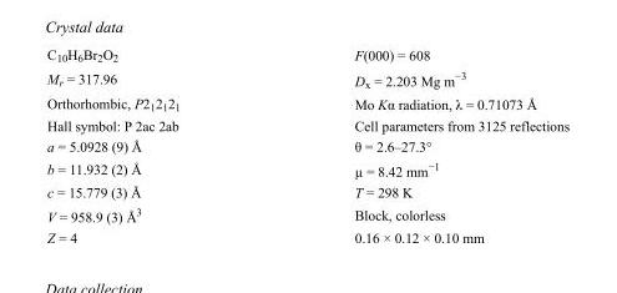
<table><tbody><tr><td>C<sub>10</sub>H<sub>6</sub>Br<sub>2</sub>O<sub>2</sub></td><td>F(000) = 608</td></tr><tr><td>M<sub>r</sub> = 317.96</td><td>D<sub>x</sub> = 2.203 Mg m<sup>−3</sup></td></tr><tr><td>Orthorhombic, P2<sub>1</sub>2<sub>1</sub>2<sub>1</sub></td><td>Mo Kα radiation, λ = 0.71073 Å</td></tr><tr><td>Hall symbol: P 2ac 2ab</td><td>Cell parameters from 3125 reflections</td></tr><tr><td>a = 5.0928 (9) Å</td><td>θ = 2.6–27.3°</td></tr><tr><td>b = 11.932 (2) Å</td><td>µ = 8.42 mm<sup>−1</sup></td></tr><tr><td>c = 15.779 (3) Å</td><td>T = 298 K</td></tr><tr><td>V = 958.9 (3) Å<sup>3</sup></td><td>Block, colorless</td></tr><tr><td>Z = 4</td><td>0.16 × 0.12 × 0.10 mm</td></tr></tbody></table>